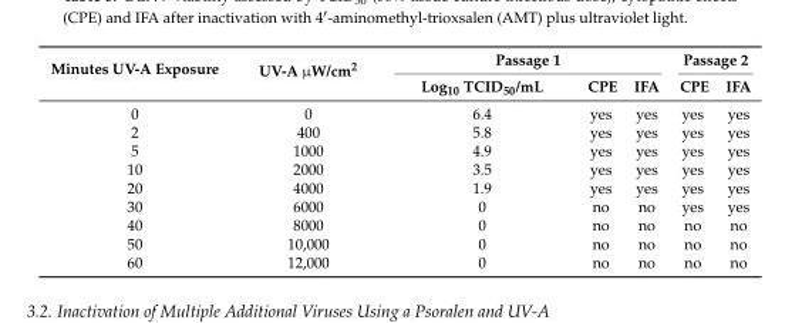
<table><thead><tr><td rowspan="2">Minutes UV-A Exposure</td><td rowspan="2">UV-A µW/cm<sup>2</sup></td><td colspan="3">Passage 1</td><td colspan="2">Passage 2</td></tr><tr><td>Log<sub>10</sub> TCID<sub>50</sub>/mL</td><td>CPE</td><td>IFA</td><td>CPE</td><td>IFA</td></tr></thead><tbody><tr><td>0</td><td>0</td><td>6.4</td><td>yes</td><td>yes</td><td>yes</td><td>yes</td></tr><tr><td>2</td><td>400</td><td>5.8</td><td>yes</td><td>yes</td><td>yes</td><td>yes</td></tr><tr><td>5</td><td>1000</td><td>4.9</td><td>yes</td><td>yes</td><td>yes</td><td>yes</td></tr><tr><td>10</td><td>2000</td><td>3.5</td><td>yes</td><td>yes</td><td>yes</td><td>yes</td></tr><tr><td>20</td><td>4000</td><td>1.9</td><td>yes</td><td>yes</td><td>yes</td><td>yes</td></tr><tr><td>30</td><td>6000</td><td>0</td><td>no</td><td>no</td><td>yes</td><td>yes</td></tr><tr><td>40</td><td>8000</td><td>0</td><td>no</td><td>no</td><td>no</td><td>no</td></tr><tr><td>50</td><td>10,000</td><td>0</td><td>no</td><td>no</td><td>no</td><td>no</td></tr><tr><td>60</td><td>12,000</td><td>0</td><td>no</td><td>no</td><td>no</td><td>no</td></tr></tbody></table>